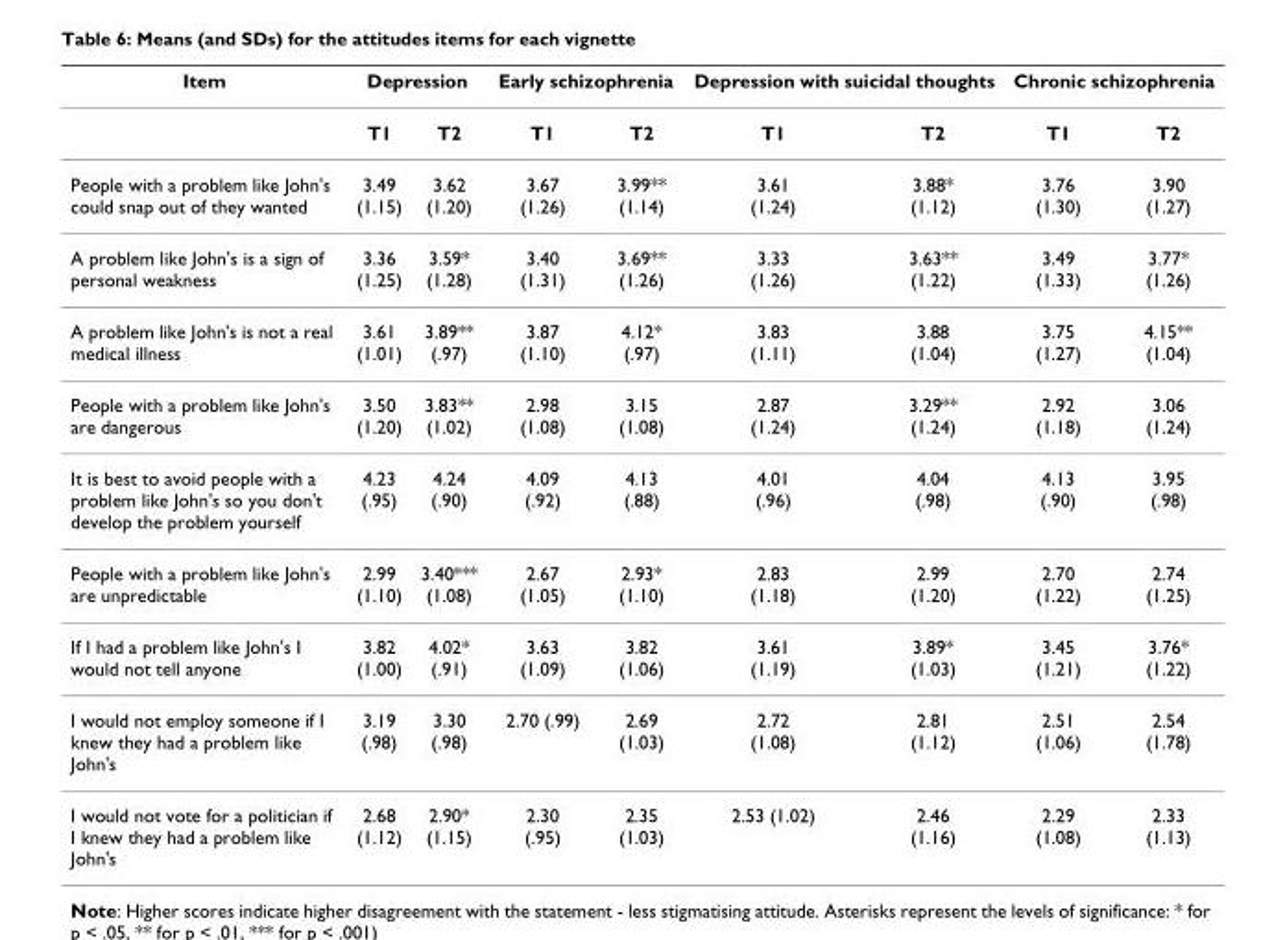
<table><thead><tr><td rowspan="2">Item</td><td colspan="2">Depression</td><td colspan="2">Early schizophrenia</td><td colspan="2">Depression with suicidal thoughts</td><td colspan="2">Chronic schizophrenia</td></tr><tr><td>T1</td><td>T2</td><td>T1</td><td>T2</td><td>T1</td><td>T2</td><td>T1</td><td>T2</td></tr></thead><tbody><tr><td>People with a problem like John&#x27;s could snap out of they wanted</td><td>3.49 (1.15)</td><td>3.62 (1.20)</td><td>3.67 (1.26)</td><td>3.99** (1.14)</td><td>3.61 (1.24)</td><td>3.88* (1.12)</td><td>3.76 (1.30)</td><td>3.90 (1.27)</td></tr><tr><td>A problem like John&#x27;s is a sign of personal weakness</td><td>3.36 (1.25)</td><td>3.59* (1.28)</td><td>3.40 (1.31)</td><td>3.69** (1.26)</td><td>3.33 (1.26)</td><td>3.63** (1.22)</td><td>3.49 (1.33)</td><td>3.77* (1.26)</td></tr><tr><td>A problem like John&#x27;s is not a real medical illness</td><td>3.61 (1.01)</td><td>3.89** (.97)</td><td>3.87 (1.10)</td><td>4.12* (.97)</td><td>3.83 (1.11)</td><td>3.88 (1.04)</td><td>3.75 (1.27)</td><td>4.15** (1.04)</td></tr><tr><td>People with a problem like John&#x27;s are dangerous</td><td>3.50 (1.20)</td><td>3.83** (1.02)</td><td>2.98 (1.08)</td><td>3.15 (1.08)</td><td>2.87 (1.24)</td><td>3.29** (1.24)</td><td>2.92 (1.18)</td><td>3.06 (1.24)</td></tr><tr><td>It is best to avoid people with a problem like John&#x27;s so you don&#x27;t develop the problem yourself</td><td>4.23 (.95)</td><td>4.24 (.90)</td><td>4.09 (.92)</td><td>4.13 (.88)</td><td>4.01 (.96)</td><td>4.04 (.98)</td><td>4.13 (.90)</td><td>3.95 (.98)</td></tr><tr><td>People with a problem like John&#x27;s are unpredictable</td><td>2.99 (1.10)</td><td>3.40*** (1.08)</td><td>2.67 (1.05)</td><td>2.93* (1.10)</td><td>2.83 (1.18)</td><td>2.99 (1.20)</td><td>2.70 (1.22)</td><td>2.74 (1.25)</td></tr><tr><td>If I had a problem like John&#x27;s I would not tell anyone</td><td>3.82 (1.00)</td><td>4.02* (.91)</td><td>3.63 (1.09)</td><td>3.82 (1.06)</td><td>3.61 (1.19)</td><td>3.89* (1.03)</td><td>3.45 (1.21)</td><td>3.76* (1.22)</td></tr><tr><td>I would not employ someone if I knew they had a problem like John&#x27;s</td><td>3.19 (.98)</td><td>3.30 (.98)</td><td>2.70 (.99)</td><td>2.69 (1.03)</td><td>2.72 (1.08)</td><td>2.81 (1.12)</td><td>2.51 (1.06)</td><td>2.54 (1.78)</td></tr><tr><td>I would not vote for a politician if I knew they had a problem like John&#x27;s</td><td>2.68 (1.12)</td><td>2.90* (1.15)</td><td>2.30 (.95)</td><td>2.35 (1.03)</td><td>2.53 (1.02)</td><td>2.46 (1.16)</td><td>2.29 (1.08)</td><td>2.33 (1.13)</td></tr></tbody></table>